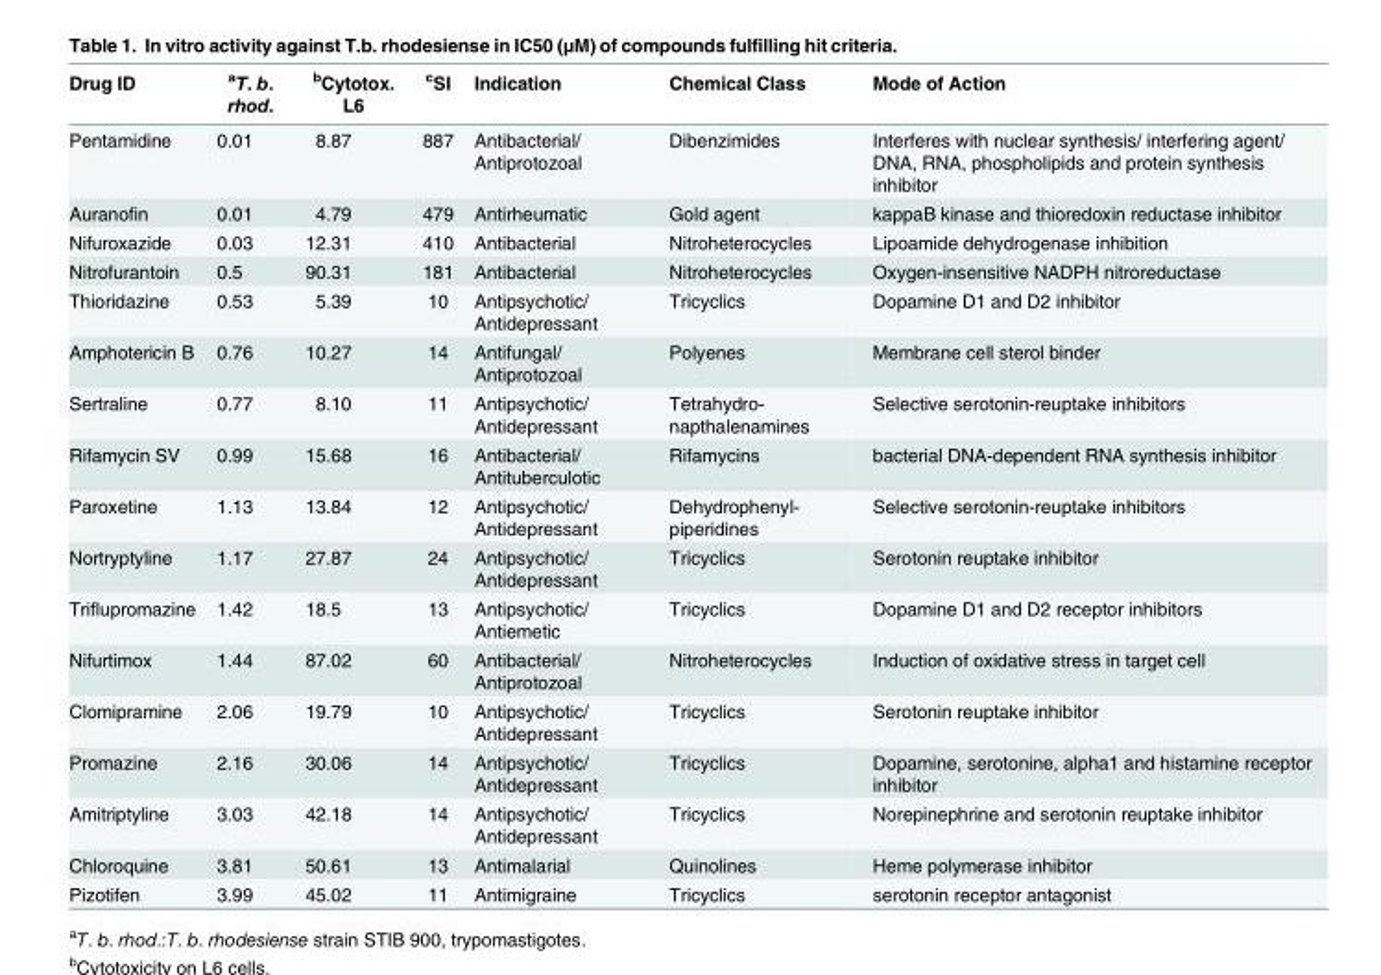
<table><thead><tr><td>Drug ID</td><td><sup>a</sup>T. b. rhod.</td><td><sup>b</sup>Cytotox. L6</td><td><sup>c</sup>SI</td><td>Indication</td><td>Chemical Class</td><td>Mode of Action</td></tr></thead><tbody><tr><td>Pentamidine</td><td>0.01</td><td>8.87</td><td>887</td><td>Antibacterial/ Antiprotozoal</td><td>Dibenzimides</td><td>Interferes with nuclear synthesis/ interfering agent/ DNA, RNA, phospholipids and protein synthesis inhibitor</td></tr><tr><td>Auranofin</td><td>0.01</td><td>4.79</td><td>479</td><td>Antirheumatic</td><td>Gold agent</td><td>kappaB kinase and thioredoxin reductase inhibitor</td></tr><tr><td>Nifuroxazide</td><td>0.03</td><td>12.31</td><td>410</td><td>Antibacterial</td><td>Nitroheterocycles</td><td>Lipoamide dehydrogenase inhibition</td></tr><tr><td>Nitrofurantoin</td><td>0.5</td><td>90.31</td><td>181</td><td>Antibacterial</td><td>Nitroheterocycles</td><td>Oxygen-insensitive NADPH nitroreductase</td></tr><tr><td>Thioridazine</td><td>0.53</td><td>5.39</td><td>10</td><td>Antipsychotic/ Antidepressant</td><td>Tricyclics</td><td>Dopamine D1 and D2 inhibitor</td></tr><tr><td>Amphotericin B</td><td>0.76</td><td>10.27</td><td>14</td><td>Antifungal/ Antiprotozoal</td><td>Polyenes</td><td>Membrane cell sterol binder</td></tr><tr><td>Sertraline</td><td>0.77</td><td>8.10</td><td>11</td><td>Antipsychotic/ Antidepressant</td><td>Tetrahydro- napthalenamines</td><td>Selective serotonin-reuptake inhibitors</td></tr><tr><td>Rifamycin SV</td><td>0.99</td><td>15.68</td><td>16</td><td>Antibacterial/ Antituberculotic</td><td>Rifamycins</td><td>bacterial DNA-dependent RNA synthesis inhibitor</td></tr><tr><td>Paroxetine</td><td>1.13</td><td>13.84</td><td>12</td><td>Antipsychotic/ Antidepressant</td><td>Dehydrophenyl- piperidines</td><td>Selective serotonin-reuptake inhibitors</td></tr><tr><td>Nortryptyline</td><td>1.17</td><td>27.87</td><td>24</td><td>Antipsychotic/ Antidepressant</td><td>Tricyclics</td><td>Serotonin reuptake inhibitor</td></tr><tr><td>Triflupromazine</td><td>1.42</td><td>18.5</td><td>13</td><td>Antipsychotic/ Antiemetic</td><td>Tricyclics</td><td>Dopamine D1 and D2 receptor inhibitors</td></tr><tr><td>Nifurtimox</td><td>1.44</td><td>87.02</td><td>60</td><td>Antibacterial/ Antiprotozoal</td><td>Nitroheterocycles</td><td>Induction of oxidative stress in target cell</td></tr><tr><td>Clomipramine</td><td>2.06</td><td>19.79</td><td>10</td><td>Antipsychotic/ Antidepressant</td><td>Tricyclics</td><td>Serotonin reuptake inhibitor</td></tr><tr><td>Promazine</td><td>2.16</td><td>30.06</td><td>14</td><td>Antipsychotic/ Antidepressant</td><td>Tricyclics</td><td>Dopamine, serotonine, alpha1 and histamine receptor inhibitor</td></tr><tr><td>Amitriptyline</td><td>3.03</td><td>42.18</td><td>14</td><td>Antipsychotic/ Antidepressant</td><td>Tricyclics</td><td>Norepinephrine and serotonin reuptake inhibitor</td></tr><tr><td>Chloroquine</td><td>3.81</td><td>50.61</td><td>13</td><td>Antimalarial</td><td>Quinolines</td><td>Heme polymerase inhibitor</td></tr><tr><td>Pizotifen</td><td>3.99</td><td>45.02</td><td>11</td><td>Antimigraine</td><td>Tricyclics</td><td>serotonin receptor antagonist</td></tr></tbody></table>